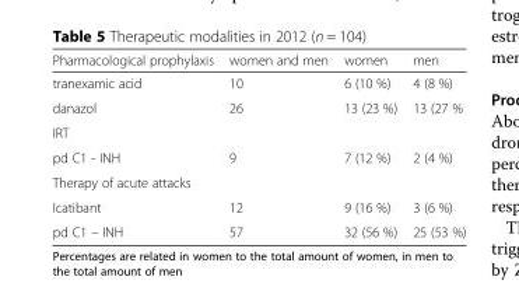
<table><thead><tr><td>Pharmacological prophylaxis</td><td>women and men</td><td>women</td><td>men</td></tr></thead><tbody><tr><td>tranexamic acid</td><td>10</td><td>6 (10 %)</td><td>4 (8 %)</td></tr><tr><td>danazol</td><td>26</td><td>13 (23 %)</td><td>13 (27 %</td></tr><tr><td colspan="4">IRT</td></tr><tr><td>pd C1 - INH</td><td>9</td><td>7 (12 %)</td><td>2 (4 %)</td></tr><tr><td colspan="4">Therapy of acute attacks</td></tr><tr><td>Icatibant</td><td>12</td><td>9 (16 %)</td><td>3 (6 %)</td></tr><tr><td>pd C1 – INH</td><td>57</td><td>32 (56 %)</td><td>25 (53 %)</td></tr></tbody></table>